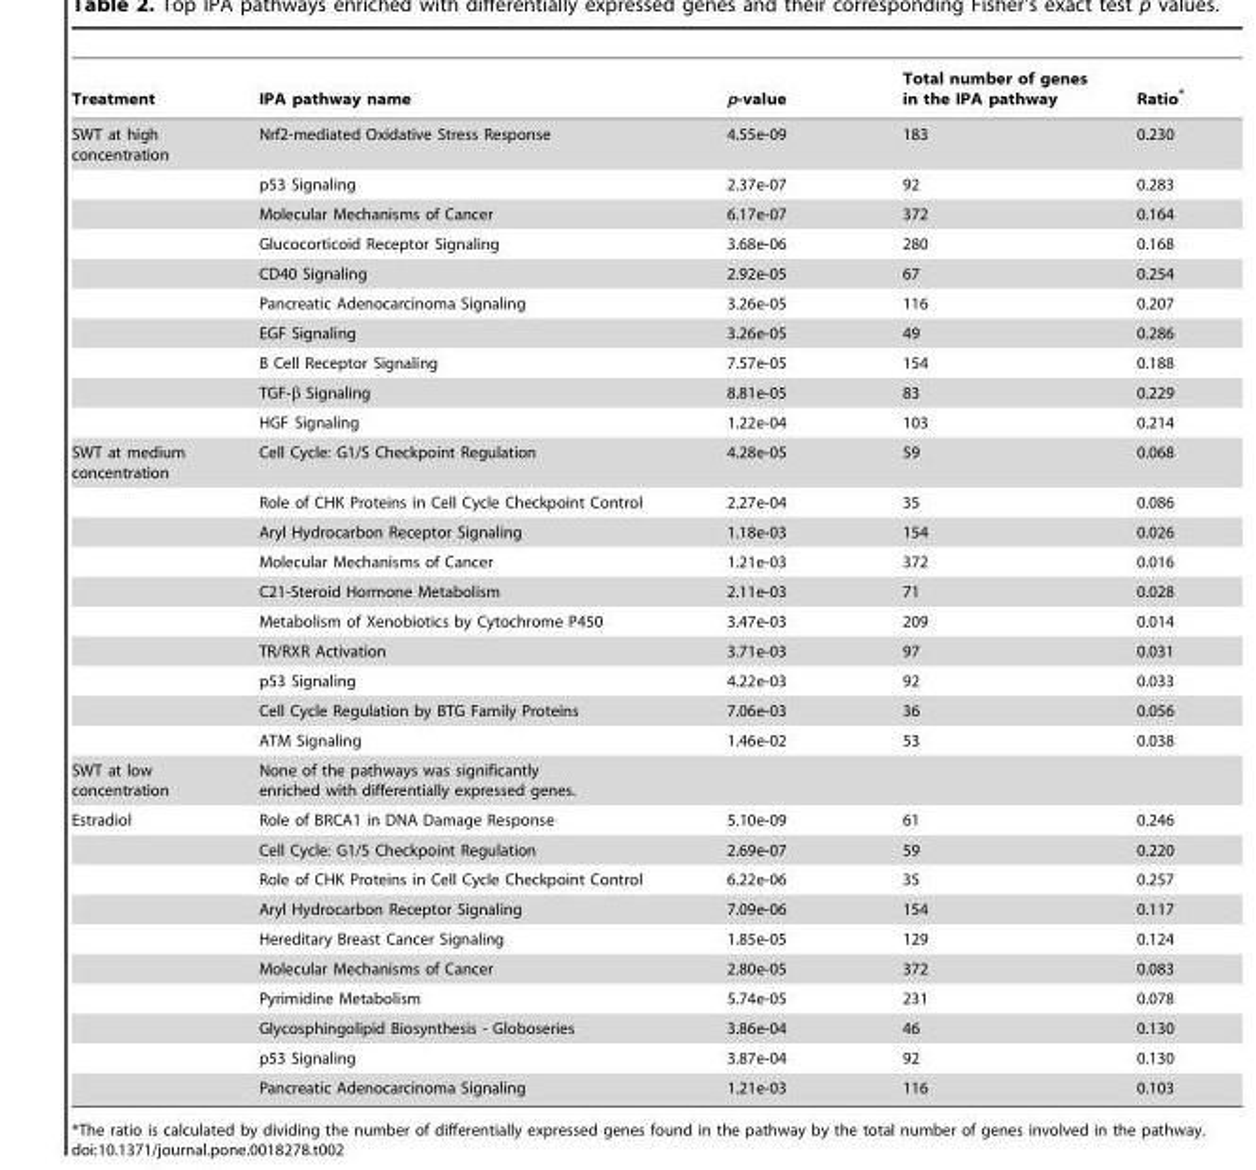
<table><thead><tr><td>Treatment</td><td>IPA pathway name</td><td>p-value</td><td>Total number of genes in the IPA pathway</td><td>Ratio*</td></tr></thead><tbody><tr><td rowspan="10">SWT at high concentration</td><td>Nrf2-mediated Oxidative Stress Response</td><td>4.55e-09</td><td>183</td><td>0.230</td></tr><tr><td>p53 Signaling</td><td>2.37e-07</td><td>92</td><td>0.283</td></tr><tr><td>Molecular Mechanisms of Cancer</td><td>6.17e-07</td><td>372</td><td>0.164</td></tr><tr><td>Glucocorticoid Receptor Signaling</td><td>3.68e-06</td><td>280</td><td>0.168</td></tr><tr><td>CD40 Signaling</td><td>2.92e-05</td><td>67</td><td>0.254</td></tr><tr><td>Pancreatic Adenocarcinoma Signaling</td><td>3.26e-05</td><td>116</td><td>0.207</td></tr><tr><td>EGF Signaling</td><td>3.26e-05</td><td>49</td><td>0.286</td></tr><tr><td>B Cell Receptor Signaling</td><td>7.57e-05</td><td>154</td><td>0.188</td></tr><tr><td>TGF-β Signaling</td><td>8.81e-05</td><td>83</td><td>0.229</td></tr><tr><td>HGF Signaling</td><td>1.22e-04</td><td>103</td><td>0.214</td></tr><tr><td rowspan="10">SWT at medium concentration</td><td>Cell Cycle: G1/S Checkpoint Regulation</td><td>4.28e-05</td><td>59</td><td>0.068</td></tr><tr><td>Role of CHK Proteins in Cell Cycle Checkpoint Control</td><td>2.27e-04</td><td>35</td><td>0.086</td></tr><tr><td>Aryl Hydrocarbon Receptor Signaling</td><td>1.18e-03</td><td>154</td><td>0.026</td></tr><tr><td>Molecular Mechanisms of Cancer</td><td>1.21e-03</td><td>372</td><td>0.016</td></tr><tr><td>C21-Steroid Hormone Metabolism</td><td>2.11e-03</td><td>71</td><td>0.028</td></tr><tr><td>Metabolism of Xenobiotics by Cytochrome P450</td><td>3.47e-03</td><td>209</td><td>0.014</td></tr><tr><td>TR/RXR Activation</td><td>3.71e-03</td><td>97</td><td>0.031</td></tr><tr><td>p53 Signaling</td><td>4.22e-03</td><td>92</td><td>0.033</td></tr><tr><td>Cell Cycle Regulation by BTG Family Proteins</td><td>7.06e-03</td><td>36</td><td>0.056</td></tr><tr><td>ATM Signaling</td><td>1.46e-02</td><td>53</td><td>0.038</td></tr><tr><td>SWT at low concentration</td><td colspan="4">None of the pathways was significantly enriched with differentially expressed genes.</td></tr><tr><td rowspan="10">Estradiol</td><td>Role of BRCA1 in DNA Damage Response</td><td>5.10e-09</td><td>61</td><td>0.246</td></tr><tr><td>Cell Cycle: G1/S Checkpoint Regulation</td><td>2.69e-07</td><td>59</td><td>0.220</td></tr><tr><td>Role of CHK Proteins in Cell Cycle Checkpoint Control</td><td>6.22e-06</td><td>35</td><td>0.257</td></tr><tr><td>Aryl Hydrocarbon Receptor Signaling</td><td>7.09e-06</td><td>154</td><td>0.117</td></tr><tr><td>Hereditary Breast Cancer Signaling</td><td>1.85e-05</td><td>129</td><td>0.124</td></tr><tr><td>Molecular Mechanisms of Cancer</td><td>2.80e-05</td><td>372</td><td>0.083</td></tr><tr><td>Pyrimidine Metabolism</td><td>5.74e-05</td><td>231</td><td>0.078</td></tr><tr><td>Glycosphingolipid Biosynthesis - Globoseries</td><td>3.86e-04</td><td>46</td><td>0.130</td></tr><tr><td>p53 Signaling</td><td>3.87e-04</td><td>92</td><td>0.130</td></tr><tr><td>Pancreatic Adenocarcinoma Signaling</td><td>1.21e-03</td><td>116</td><td>0.103</td></tr></tbody></table>